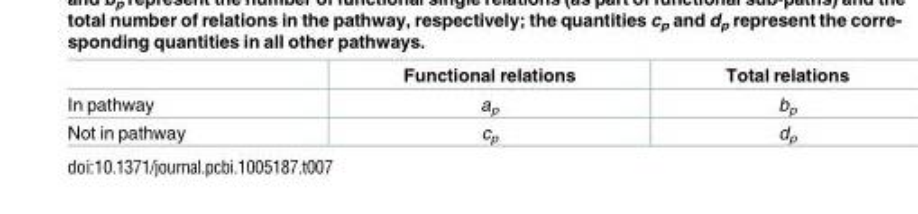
<table><thead><tr><td></td><td>Functional relations</td><td>Total relations</td></tr></thead><tbody><tr><td>In pathway</td><td>a<sub>p</sub></td><td>b<sub>p</sub></td></tr><tr><td>Not in pathway</td><td>c<sub>p</sub></td><td>d<sub>p</sub></td></tr></tbody></table>